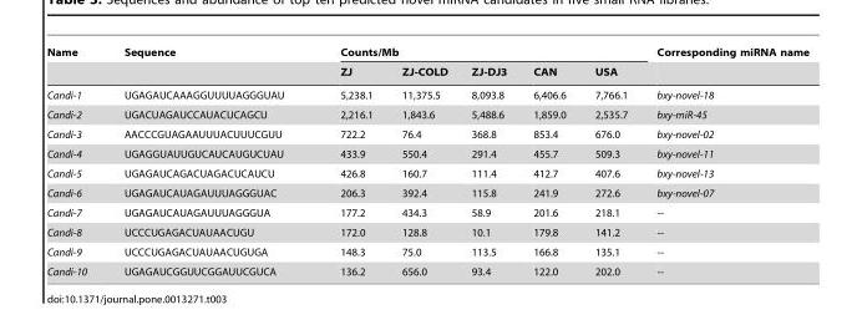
<table><thead><tr><td rowspan="2">Name</td><td rowspan="2">Sequence</td><td colspan="5">Counts/Mb</td><td rowspan="2">Corresponding miRNA name</td></tr><tr><td>ZJ</td><td>ZJ-COLD</td><td>ZJ-DJ3</td><td>CAN</td><td>USA</td></tr></thead><tbody><tr><td>Candi-1</td><td>UGAGAUCAAAGGUUUUAGGGUAU</td><td>5,238.1</td><td>11,375.5</td><td>8,093.8</td><td>6,406.6</td><td>7,766.1</td><td>bxy-novel-18</td></tr><tr><td>Candi-2</td><td>UGACUAGAUCCAUACUCAGCU</td><td>2,216.1</td><td>1,843.6</td><td>5,488.6</td><td>1,859.0</td><td>2,535.7</td><td>bxy-miR-45</td></tr><tr><td>Candi-3</td><td>AACCCGUAGAAUUUACUUUCGUU</td><td>722.2</td><td>76.4</td><td>368.8</td><td>853.4</td><td>676.0</td><td>bxy-novel-02</td></tr><tr><td>Candi-4</td><td>UGAGGUAUUGUCAUCAUGUCUAU</td><td>433.9</td><td>550.4</td><td>291.4</td><td>455.7</td><td>509.3</td><td>bxy-novel-11</td></tr><tr><td>Candi-5</td><td>UGAGAUCAGACUAGACUCAUCU</td><td>426.8</td><td>160.7</td><td>111.4</td><td>412.7</td><td>407.6</td><td>bxy-novel-13</td></tr><tr><td>Candi-6</td><td>UGAGAUCAUAGAUUUAGGGUAC</td><td>206.3</td><td>392.4</td><td>115.8</td><td>241.9</td><td>272.6</td><td>bxy-novel-07</td></tr><tr><td>Candi-7</td><td>UGAGAUCAUAGAUUUAGGGUA</td><td>177.2</td><td>434.3</td><td>58.9</td><td>201.6</td><td>218.1</td><td>--</td></tr><tr><td>Candi-8</td><td>UCCCUGAGACUAUAACUGU</td><td>172.0</td><td>128.8</td><td>10.1</td><td>179.8</td><td>141.2</td><td>--</td></tr><tr><td>Candi-9</td><td>UCCCUGAGACUAUAACUGUGA</td><td>148.3</td><td>75.0</td><td>113.5</td><td>166.8</td><td>135.1</td><td>--</td></tr><tr><td>Candi-10</td><td>UGAGAUCGGUUCGGAUUCGUCA</td><td>136.2</td><td>656.0</td><td>93.4</td><td>122.0</td><td>202.0</td><td>--</td></tr></tbody></table>